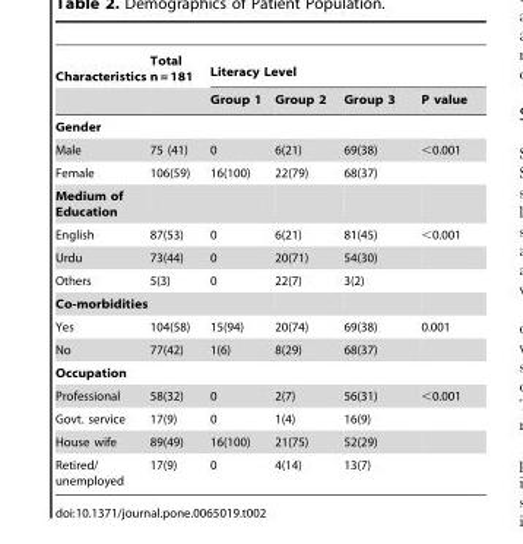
<table><thead><tr><td rowspan="2">Characteristics</td><td rowspan="2">Total n = 181</td><td colspan="4">Literacy Level</td></tr><tr><td>Group 1</td><td>Group 2</td><td>Group 3</td><td>P value</td></tr></thead><tbody><tr><td colspan="6">Gender</td></tr><tr><td>Male</td><td>75 (41)</td><td>0</td><td>6(21)</td><td>69(38)</td><td>&lt;0.001</td></tr><tr><td>Female</td><td>106(59)</td><td>16(100)</td><td>22(79)</td><td>68(37)</td><td></td></tr><tr><td colspan="6">Medium of Education</td></tr><tr><td>English</td><td>87(53)</td><td>0</td><td>6(21)</td><td>81(45)</td><td>&lt;0.001</td></tr><tr><td>Urdu</td><td>73(44)</td><td>0</td><td>20(71)</td><td>54(30)</td><td></td></tr><tr><td>Others</td><td>5(3)</td><td>0</td><td>22(7)</td><td>3(2)</td><td></td></tr><tr><td colspan="6">Co-morbidities</td></tr><tr><td>Yes</td><td>104(58)</td><td>15(94)</td><td>20(74)</td><td>69(38)</td><td>0.001</td></tr><tr><td>No</td><td>77(42)</td><td>1(6)</td><td>8(29)</td><td>68(37)</td><td></td></tr><tr><td colspan="6">Occupation</td></tr><tr><td>Professional</td><td>58(32)</td><td>0</td><td>2(7)</td><td>56(31)</td><td>&lt;0.001</td></tr><tr><td>Govt. service</td><td>17(9)</td><td>0</td><td>1(4)</td><td>16(9)</td><td></td></tr><tr><td>House wife</td><td>89(49)</td><td>16(100)</td><td>21(75)</td><td>52(29)</td><td></td></tr><tr><td>Retired/ unemployed</td><td>17(9)</td><td>0</td><td>4(14)</td><td>13(7)</td><td></td></tr></tbody></table>